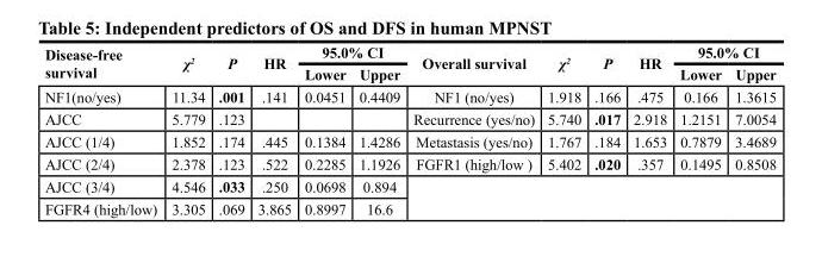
<table><thead><tr><td rowspan="2">Disease‑free survival</td><td rowspan="2">χ<sup>2</sup></td><td rowspan="2">P</td><td rowspan="2">HR</td><td colspan="2">95.0% CI</td><td rowspan="2">Overall survival</td><td rowspan="2">χ<sup>2</sup></td><td rowspan="2">P</td><td rowspan="2">HR</td><td colspan="2">95.0% CI</td></tr><tr><td>Lower</td><td>Upper</td><td>Lower</td><td>Upper</td></tr></thead><tbody><tr><td>NF1(no/yes)</td><td>11.34</td><td>.001</td><td>.141</td><td>0.0451</td><td>0.4409</td><td>NF1 (no/yes)</td><td>1.918</td><td>.166</td><td>.475</td><td>0.166</td><td>1.3615</td></tr><tr><td>AJCC</td><td>5.779</td><td>.123</td><td></td><td></td><td></td><td>Recurrence (yes/no)</td><td>5.740</td><td>.017</td><td>2.918</td><td>1.2151</td><td>7.0054</td></tr><tr><td>AJCC (1/4)</td><td>1.852</td><td>.174</td><td>.445</td><td>0.1384</td><td>1.4286</td><td>Metastasis (yes/no)</td><td>1.767</td><td>.184</td><td>1.653</td><td>0.7879</td><td>3.4689</td></tr><tr><td>AJCC (2/4)</td><td>2.378</td><td>.123</td><td>.522</td><td>0.2285</td><td>1.1926</td><td>FGFR1 (high/low )</td><td>5.402</td><td>.020</td><td>.357</td><td>0.1495</td><td>0.8508</td></tr><tr><td>AJCC (3/4)</td><td>4.546</td><td>.033</td><td>.250</td><td>0.0698</td><td>0.894</td><td rowspan="2" colspan="6"></td></tr><tr><td>FGFR4 (high/low)</td><td>3.305</td><td>.069</td><td>3.865</td><td>0.8997</td><td>16.6</td></tr></tbody></table>